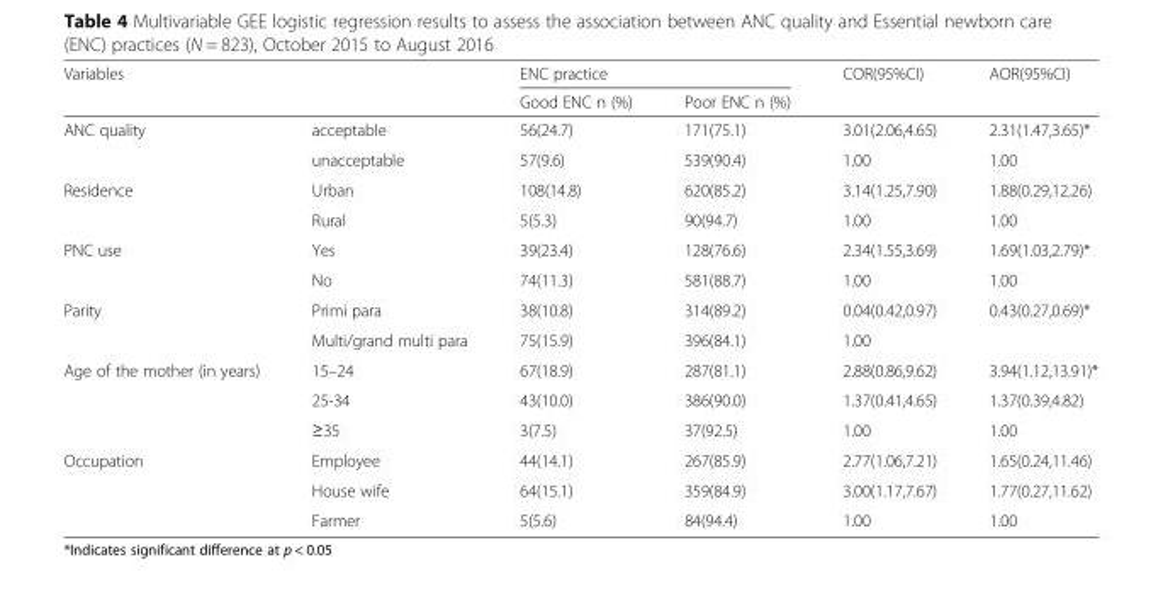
<table><thead><tr><td rowspan="2">Variables</td><td rowspan="2"></td><td colspan="2">ENC practice</td><td rowspan="2">COR(95%CI)</td><td rowspan="2">AOR(95%CI)</td></tr><tr><td>Good ENC n (%)</td><td>Poor ENC n (%)</td></tr></thead><tbody><tr><td rowspan="2">ANC quality</td><td>acceptable</td><td>56(24.7)</td><td>171(75.1)</td><td>3.01(2.06,4.65)</td><td>2.31(1.47,3.65)*</td></tr><tr><td>unacceptable</td><td>57(9.6)</td><td>539(90.4)</td><td>1.00</td><td>1.00</td></tr><tr><td rowspan="2">Residence</td><td>Urban</td><td>108(14.8)</td><td>620(85.2)</td><td>3.14(1.25,7.90)</td><td>1.88(0.29,12.26)</td></tr><tr><td>Rural</td><td>5(5.3)</td><td>90(94.7)</td><td>1.00</td><td>1.00</td></tr><tr><td rowspan="2">PNC use</td><td>Yes</td><td>39(23.4)</td><td>128(76.6)</td><td>2.34(1.55,3.69)</td><td>1.69(1.03,2.79)*</td></tr><tr><td>No</td><td>74(11.3)</td><td>581(88.7)</td><td>1.00</td><td>1.00</td></tr><tr><td rowspan="2">Parity</td><td>Primi para</td><td>38(10.8)</td><td>314(89.2)</td><td>0.04(0.42,0.97)</td><td>0.43(0.27,0.69)*</td></tr><tr><td>Multi/grand multi para</td><td>75(15.9)</td><td>396(84.1)</td><td>1.00</td><td></td></tr><tr><td rowspan="3">Age of the mother (in years)</td><td>15–24</td><td>67(18.9)</td><td>287(81.1)</td><td>2.88(0.86,9.62)</td><td>3.94(1.12,13.91)*</td></tr><tr><td>25-34</td><td>43(10.0)</td><td>386(90.0)</td><td>1.37(0.41,4.65)</td><td>1.37(0.39,4.82)</td></tr><tr><td>≥35</td><td>3(7.5)</td><td>37(92.5)</td><td>1.00</td><td>1.00</td></tr><tr><td rowspan="3">Occupation</td><td>Employee</td><td>44(14.1)</td><td>267(85.9)</td><td>2.77(1.06,7.21)</td><td>1.65(0.24,11.46)</td></tr><tr><td>House wife</td><td>64(15.1)</td><td>359(84.9)</td><td>3.00(1.17,7.67)</td><td>1.77(0.27,11.62)</td></tr><tr><td>Farmer</td><td>5(5.6)</td><td>84(94.4)</td><td>1.00</td><td>1.00</td></tr></tbody></table>